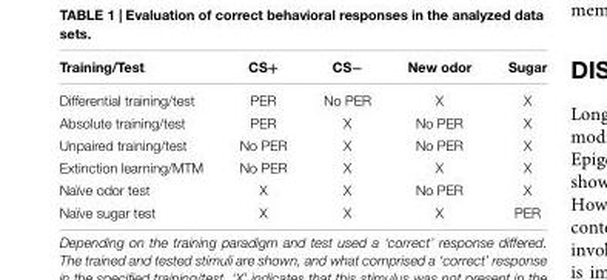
<table><thead><tr><td>Training/Test</td><td>CS+</td><td>CS−</td><td>New odor</td><td>Sugar</td></tr></thead><tbody><tr><td>Differential training/test</td><td>PER</td><td>No PER</td><td>X</td><td>X</td></tr><tr><td>Absolute training/test</td><td>PER</td><td>X</td><td>No PER</td><td>X</td></tr><tr><td>Unpaired training/test</td><td>No PER</td><td>X</td><td>No PER</td><td>X</td></tr><tr><td>Extinction learning/MTM</td><td>No PER</td><td>X</td><td>X</td><td>X</td></tr><tr><td>Naïve odor test</td><td>X</td><td>X</td><td>No PER</td><td>X</td></tr><tr><td>Naïve sugar test</td><td>X</td><td>X</td><td>X</td><td>PER</td></tr></tbody></table>